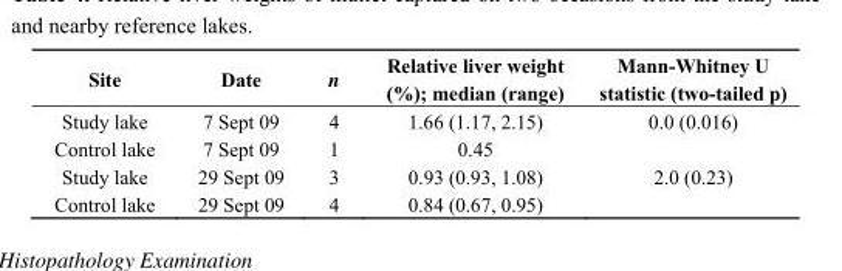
<table><thead><tr><td>Site</td><td>Date</td><td>n</td><td>Relative liver weight (%); median (range)</td><td>Mann-Whitney U statistic (two-tailed p)</td></tr></thead><tbody><tr><td>Study lake</td><td>7 Sept 09</td><td>4</td><td>1.66 (1.17, 2.15)</td><td>0.0 (0.016)</td></tr><tr><td>Control lake</td><td>7 Sept 09</td><td>1</td><td>0.45</td><td></td></tr><tr><td>Study lake</td><td>29 Sept 09</td><td>3</td><td>0.93 (0.93, 1.08)</td><td>2.0 (0.23)</td></tr><tr><td>Control lake</td><td>29 Sept 09</td><td>4</td><td>0.84 (0.67, 0.95)</td><td></td></tr></tbody></table>